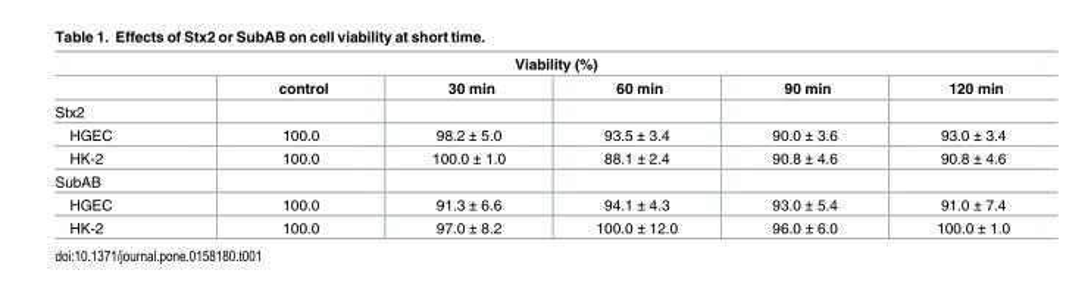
<table><thead><tr><td colspan="6">Viability (%)</td></tr><tr><td></td><td>control</td><td>30 min</td><td>60 min</td><td>90 min</td><td>120 min</td></tr></thead><tbody><tr><td colspan="6">Stx2</td></tr><tr><td>HGEC</td><td>100.0</td><td>98.2 ± 5.0</td><td>93.5 ± 3.4</td><td>90.0 ± 3.6</td><td>93.0 ± 3.4</td></tr><tr><td>HK-2</td><td>100.0</td><td>100.0 ± 1.0</td><td>88.1 ± 2.4</td><td>90.8 ± 4.6</td><td>90.8 ± 4.6</td></tr><tr><td colspan="6">SubAB</td></tr><tr><td>HGEC</td><td>100.0</td><td>91.3 ± 6.6</td><td>94.1 ± 4.3</td><td>93.0 ± 5.4</td><td>91.0 ± 7.4</td></tr><tr><td>HK-2</td><td>100.0</td><td>97.0 ± 8.2</td><td>100.0 ± 12.0</td><td>96.0 ± 6.0</td><td>100.0 ± 1.0</td></tr></tbody></table>